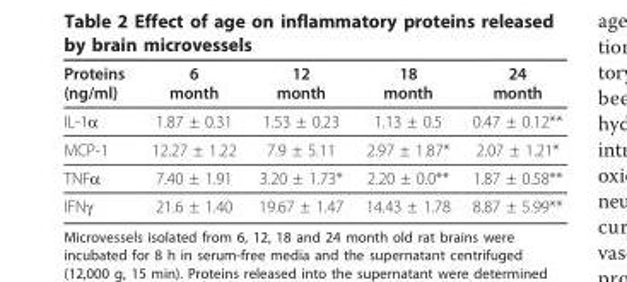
<table><thead><tr><td>Proteins (ng/ml)</td><td>6 month</td><td>12 month</td><td>18 month</td><td>24 month</td></tr></thead><tbody><tr><td>IL-1α</td><td>1.87 ± 0.31</td><td>1.53 ± 0.23</td><td>1.13 ± 0.5</td><td>0.47 ± 0.12**</td></tr><tr><td>MCP-1</td><td>12.27 ± 1.22</td><td>7.9 ± 5.11</td><td>2.97 ± 1.87*</td><td>2.07 ± 1.21*</td></tr><tr><td>TNFα</td><td>7.40 ± 1.91</td><td>3.20 ± 1.73*</td><td>2.20 ± 0.0**</td><td>1.87 ± 0.58**</td></tr><tr><td>IFNγ</td><td>21.6 ± 1.40</td><td>19.67 ± 1.47</td><td>14.43 ± 1.78</td><td>8.87 ± 5.99**</td></tr></tbody></table>